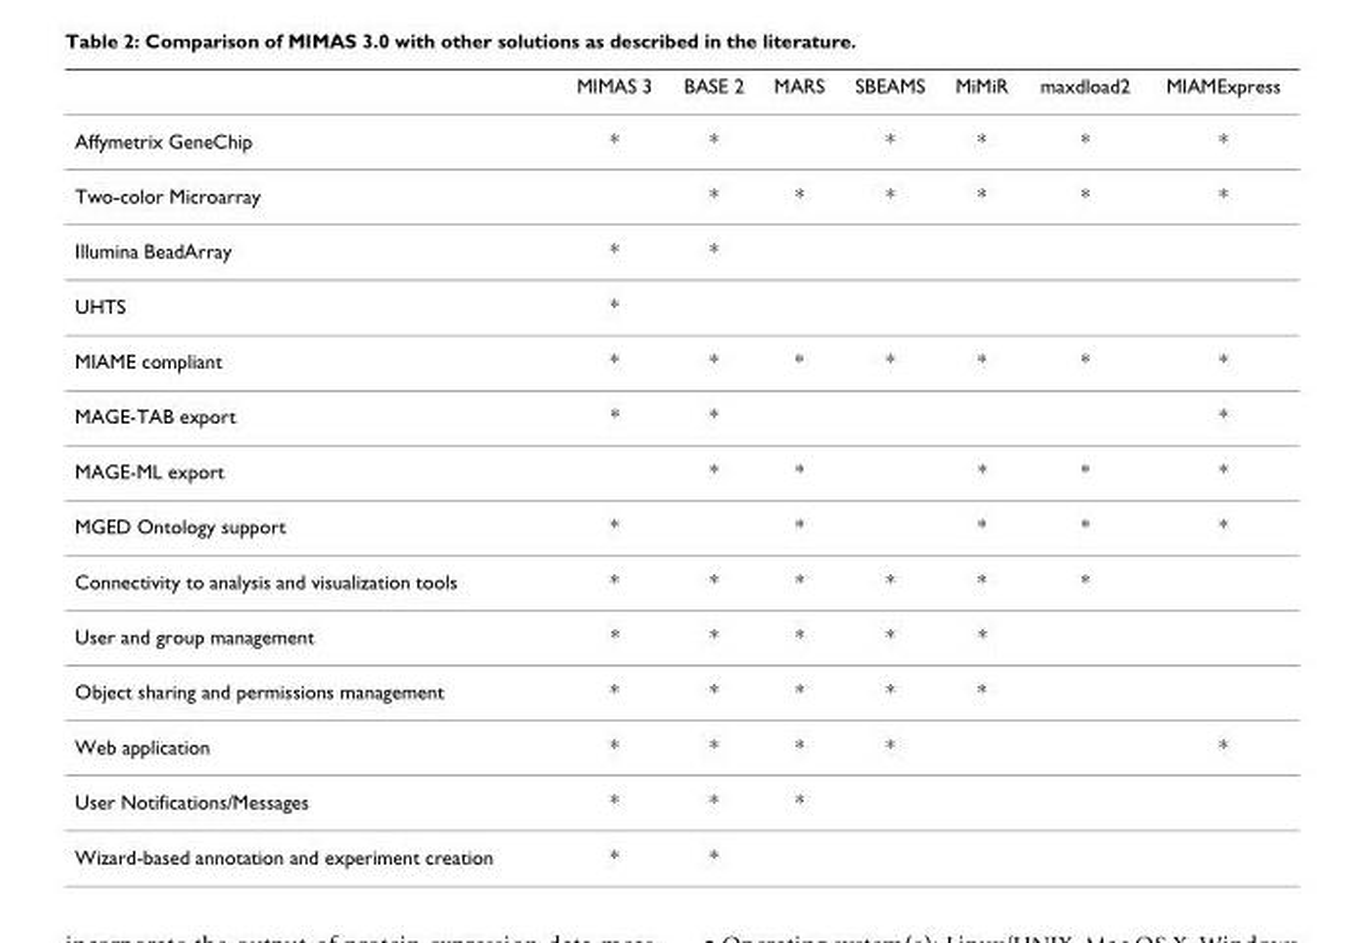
<table><thead><tr><td></td><td>MIMAS 3</td><td>BASE 2</td><td>MARS</td><td>SBEAMS</td><td>MiMiR</td><td>maxdload2</td><td>MIAMExpress</td></tr></thead><tbody><tr><td>Affymetrix GeneChip</td><td>*</td><td>*</td><td></td><td>*</td><td>*</td><td>*</td><td>*</td></tr><tr><td>Two-color Microarray</td><td></td><td>*</td><td>*</td><td>*</td><td>*</td><td>*</td><td>*</td></tr><tr><td>Illumina BeadArray</td><td>*</td><td>*</td><td></td><td></td><td></td><td></td><td></td></tr><tr><td>UHTS</td><td>*</td><td></td><td></td><td></td><td></td><td></td><td></td></tr><tr><td>MIAME compliant</td><td>*</td><td>*</td><td>*</td><td>*</td><td>*</td><td>*</td><td>*</td></tr><tr><td>MAGE-TAB export</td><td>*</td><td>*</td><td></td><td></td><td></td><td></td><td>*</td></tr><tr><td>MAGE-ML export</td><td></td><td>*</td><td>*</td><td></td><td>*</td><td>*</td><td>*</td></tr><tr><td>MGED Ontology support</td><td>*</td><td></td><td>*</td><td></td><td>*</td><td>*</td><td>*</td></tr><tr><td>Connectivity to analysis and visualization tools</td><td>*</td><td>*</td><td>*</td><td>*</td><td>*</td><td>*</td><td></td></tr><tr><td>User and group management</td><td>*</td><td>*</td><td>*</td><td>*</td><td>*</td><td></td><td></td></tr><tr><td>Object sharing and permissions management</td><td>*</td><td>*</td><td>*</td><td>*</td><td>*</td><td></td><td></td></tr><tr><td>Web application</td><td>*</td><td>*</td><td>*</td><td>*</td><td></td><td></td><td>*</td></tr><tr><td>User Notifications/Messages</td><td>*</td><td>*</td><td>*</td><td></td><td></td><td></td><td></td></tr><tr><td>Wizard-based annotation and experiment creation</td><td>*</td><td>*</td><td></td><td></td><td></td><td></td><td></td></tr></tbody></table>